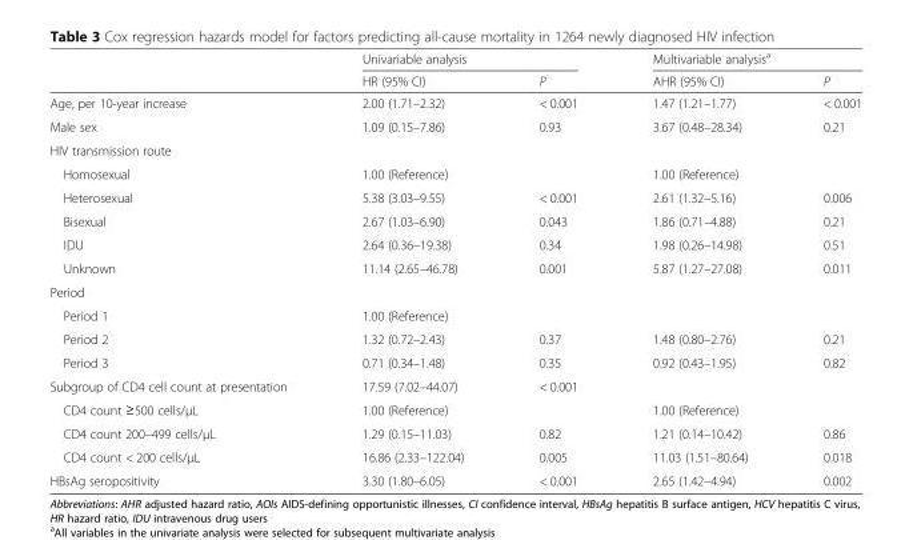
<table><thead><tr><td rowspan="2"></td><td colspan="2">Univariable analysis</td><td colspan="2">Multivariable analysis<sup>a</sup></td></tr><tr><td>HR (95% CI)</td><td>P</td><td>AHR (95% CI)</td><td>P</td></tr></thead><tbody><tr><td>Age, per 10-year increase</td><td>2.00 (1.71–2.32)</td><td>&lt; 0.001</td><td>1.47 (1.21–1.77)</td><td>&lt; 0.001</td></tr><tr><td>Male sex</td><td>1.09 (0.15–7.86)</td><td>0.93</td><td>3.67 (0.48–28.34)</td><td>0.21</td></tr><tr><td colspan="5">HIV transmission route</td></tr><tr><td>Homosexual</td><td>1.00 (Reference)</td><td></td><td>1.00 (Reference)</td><td></td></tr><tr><td>Heterosexual</td><td>5.38 (3.03–9.55)</td><td>&lt; 0.001</td><td>2.61 (1.32–5.16)</td><td>0.006</td></tr><tr><td>Bisexual</td><td>2.67 (1.03–6.90)</td><td>0.043</td><td>1.86 (0.71–4.88)</td><td>0.21</td></tr><tr><td>IDU</td><td>2.64 (0.36–19.38)</td><td>0.34</td><td>1.98 (0.26–14.98)</td><td>0.51</td></tr><tr><td>Unknown</td><td>11.14 (2.65–46.78)</td><td>0.001</td><td>5.87 (1.27–27.08)</td><td>0.011</td></tr><tr><td colspan="5">Period</td></tr><tr><td>Period 1</td><td>1.00 (Reference)</td><td></td><td></td><td></td></tr><tr><td>Period 2</td><td>1.32 (0.72–2.43)</td><td>0.37</td><td>1.48 (0.80–2.76)</td><td>0.21</td></tr><tr><td>Period 3</td><td>0.71 (0.34–1.48)</td><td>0.35</td><td>0.92 (0.43–1.95)</td><td>0.82</td></tr><tr><td>Subgroup of CD4 cell count at presentation</td><td>17.59 (7.02–44.07)</td><td>&lt; 0.001</td><td></td><td></td></tr><tr><td>CD4 count ≥500 cells/μL</td><td>1.00 (Reference)</td><td></td><td>1.00 (Reference)</td><td></td></tr><tr><td>CD4 count 200–499 cells/μL</td><td>1.29 (0.15–11.03)</td><td>0.82</td><td>1.21 (0.14–10.42)</td><td>0.86</td></tr><tr><td>CD4 count &lt; 200 cells/μL</td><td>16.86 (2.33–122.04)</td><td>0.005</td><td>11.03 (1.51–80.64)</td><td>0.018</td></tr><tr><td>HBsAg seropositivity</td><td>3.30 (1.80–6.05)</td><td>&lt; 0.001</td><td>2.65 (1.42–4.94)</td><td>0.002</td></tr></tbody></table>